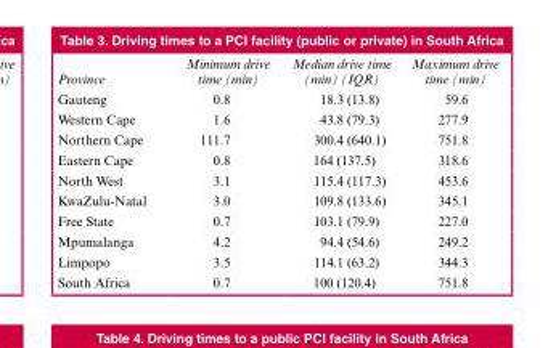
<table><thead><tr><td>Province</td><td>Minimum drive time (min)</td><td>Median drive time (min) (IQR)</td><td>Maximum drive time (min)</td></tr></thead><tbody><tr><td>Gauteng</td><td>0.8</td><td>18.3 (13.8)</td><td>59.6</td></tr><tr><td>Western Cape</td><td>1.6</td><td>43.8 (79.3)</td><td>277.9</td></tr><tr><td>Northern Cape</td><td>111.7</td><td>300.4 (640.1)</td><td>751.8</td></tr><tr><td>Eastern Cape</td><td>0.8</td><td>164 (137.5)</td><td>318.6</td></tr><tr><td>North West</td><td>3.1</td><td>115.4 (117.3)</td><td>453.6</td></tr><tr><td>KwaZulu-Natal</td><td>3.0</td><td>109.8 (133.6)</td><td>345.1</td></tr><tr><td>Free State</td><td>0.7</td><td>103.1 (79.9)</td><td>227.0</td></tr><tr><td>Mpumalanga</td><td>4.2</td><td>94.4 (54.6)</td><td>249.2</td></tr><tr><td>Limpopo</td><td>3.5</td><td>114.1 (63.2)</td><td>344.3</td></tr><tr><td>South Africa</td><td>0.7</td><td>100 (120.4)</td><td>751.8</td></tr></tbody></table>